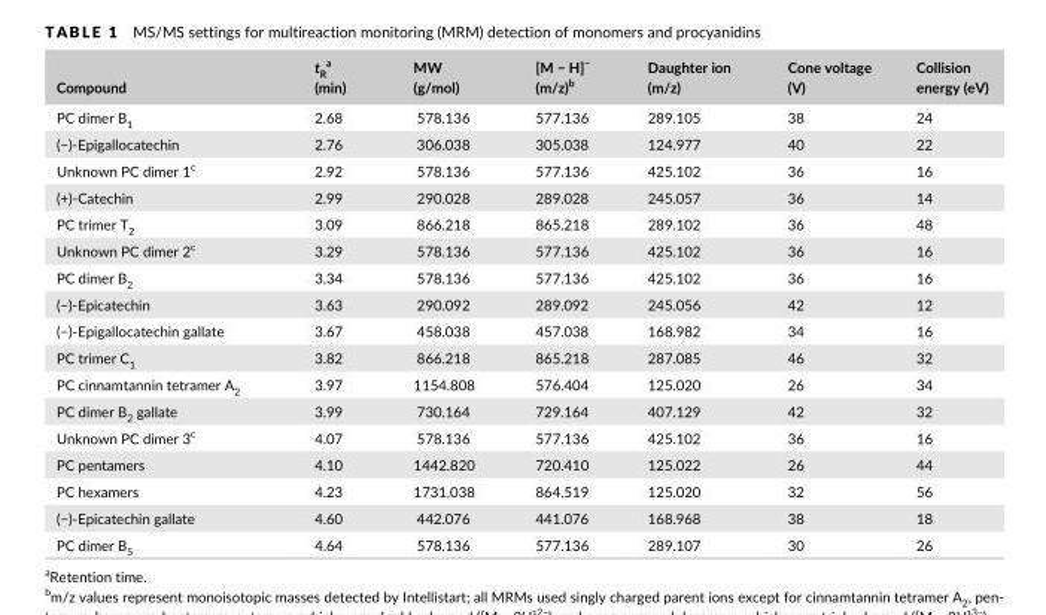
<table><thead><tr><td>Compound</td><td>t<sub>R</sub> a (min)</td><td>MW (g/mol)</td><td>[M − H]<sup>−</sup> (m/z)<sup>b</sup></td><td>Daughter ion (m/z)</td><td>Cone voltage (V)</td><td>Collision energy (eV)</td></tr></thead><tbody><tr><td>PC dimer B<sub>1</sub></td><td>2.68</td><td>578.136</td><td>577.136</td><td>289.105</td><td>38</td><td>24</td></tr><tr><td>(−)- Epigallocatechin</td><td>2.76</td><td>306.038</td><td>305.038</td><td>124.977</td><td>40</td><td>22</td></tr><tr><td>Unknown PC dimer 1<sup>c</sup></td><td>2.92</td><td>578.136</td><td>577.136</td><td>425.102</td><td>36</td><td>16</td></tr><tr><td>(+)- Catechin</td><td>2.99</td><td>290.028</td><td>289.028</td><td>245.057</td><td>36</td><td>14</td></tr><tr><td>PC trimer T<sub>2</sub></td><td>3.09</td><td>866.218</td><td>865.218</td><td>289.102</td><td>36</td><td>48</td></tr><tr><td>Unknown PC dimer 2<sup>c</sup></td><td>3.29</td><td>578.136</td><td>577.136</td><td>425.102</td><td>36</td><td>16</td></tr><tr><td>PC dimer B<sub>2</sub></td><td>3.34</td><td>578.136</td><td>577.136</td><td>425.102</td><td>36</td><td>16</td></tr><tr><td>(−)- Epicatechin</td><td>3.63</td><td>290.092</td><td>289.092</td><td>245.056</td><td>42</td><td>12</td></tr><tr><td>(−)- Epigallocatechin gallate</td><td>3.67</td><td>458.038</td><td>457.038</td><td>168.982</td><td>34</td><td>16</td></tr><tr><td>PC trimer C<sub>1</sub></td><td>3.82</td><td>866.218</td><td>865.218</td><td>287.085</td><td>46</td><td>32</td></tr><tr><td>PC cinnamtannin tetramer A<sub>2</sub></td><td>3.97</td><td>1154.808</td><td>576.404</td><td>125.020</td><td>26</td><td>34</td></tr><tr><td>PC dimer B<sub>2</sub> gallate</td><td>3.99</td><td>730.164</td><td>729.164</td><td>407.129</td><td>42</td><td>32</td></tr><tr><td>Unknown PC dimer 3<sup>c</sup></td><td>4.07</td><td>578.136</td><td>577.136</td><td>425.102</td><td>36</td><td>16</td></tr><tr><td>PC pentamers</td><td>4.10</td><td>1442.820</td><td>720.410</td><td>125.022</td><td>26</td><td>44</td></tr><tr><td>PC hexamers</td><td>4.23</td><td>1731.038</td><td>864.519</td><td>125.020</td><td>32</td><td>56</td></tr><tr><td>(−)- Epicatechin gallate</td><td>4.60</td><td>442.076</td><td>441.076</td><td>168.968</td><td>38</td><td>18</td></tr><tr><td>PC dimer B<sub>5</sub></td><td>4.64</td><td>578.136</td><td>577.136</td><td>289.107</td><td>30</td><td>26</td></tr></tbody></table>